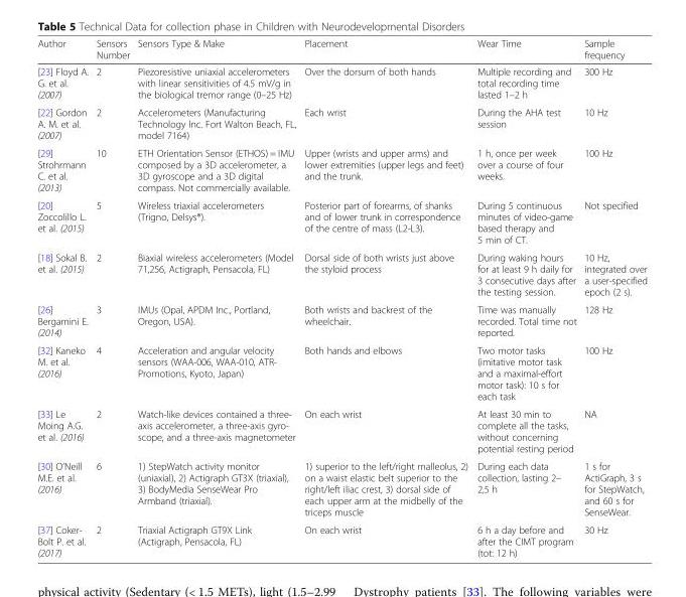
<table><thead><tr><td>Author</td><td>Sensors Number</td><td>Sensors Type &amp; Make</td><td>Placement</td><td>Wear Time</td><td>Sample frequency</td></tr></thead><tbody><tr><td>[23] Floyd A. G. et al. (2007)</td><td>2</td><td>Piezoresistive uniaxial accelerometers with linear sensitivities of 4.5 mV/g in the biological tremor range (0–25 Hz)</td><td>Over the dorsum of both hands</td><td>Multiple recording and total recording time lasted 1–2 h</td><td>300 Hz</td></tr><tr><td>[22] Gordon A. M. et al. (2007)</td><td>2</td><td>Accelerometers (Manufacturing Technology Inc. Fort Walton Beach, FL, model 7164)</td><td>Each wrist</td><td>During the AHA test session</td><td>10 Hz</td></tr><tr><td>[29] Strohrmann C. et al. (2013)</td><td>10</td><td>ETH Orientation Sensor (ETHOS) = IMU composed by a 3D accelerometer, a 3D gyroscope and a 3D digital compass. Not commercially available.</td><td>Upper (wrists and upper arms) and lower extremities (upper legs and feet) and the trunk.</td><td>1 h, once per week over a course of four weeks.</td><td>100 Hz</td></tr><tr><td>[20] Zoccolillo L. et al. (2015)</td><td>5</td><td>Wireless triaxial accelerometers (Trigno, Delsys®).</td><td>Posterior part of forearms, of shanks and of lower trunk in correspondence of the centre of mass (L2-L3).</td><td>During 5 continuous minutes of video-game based therapy and 5 min of CT.</td><td>Not specified</td></tr><tr><td>[18] Sokal B. et al. (2015)</td><td>2</td><td>Biaxial wireless accelerometers (Model 71,256, Actigraph, Pensacola, FL)</td><td>Dorsal side of both wrists just above the styloid process</td><td>During waking hours for at least 9 h daily for 3 consecutive days after the testing session.</td><td>10 Hz, integrated over a user-specified epoch (2 s).</td></tr><tr><td>[26] Bergamini E. (2014)</td><td>3</td><td>IMUs (Opal, APDM Inc., Portland, Oregon, USA).</td><td>Both wrists and backrest of the wheelchair.</td><td>Time was manually recorded. Total time not reported.</td><td>128 Hz</td></tr><tr><td>[32] Kaneko M. et al. (2016)</td><td>4</td><td>Acceleration and angular velocity sensors (WAA-006, WAA-010, ATR- Promotions, Kyoto, Japan)</td><td>Both hands and elbows</td><td>Two motor tasks (imitative motor task and a maximal-effort motor task): 10 s for each task</td><td>100 Hz</td></tr><tr><td>[33] Le Moing A.G. et al. (2016)</td><td>2</td><td>Watch-like devices contained a three- axis accelerometer, a three-axis gyro- scope, and a three-axis magnetometer</td><td>On each wrist</td><td>At least 30 min to complete all the tasks, without concerning potential resting period</td><td>NA</td></tr><tr><td>[30] O’Neill M.E. et al. (2016)</td><td>6</td><td>1) StepWatch activity monitor (uniaxial), 2) Actigraph GT3X (triaxial), 3) BodyMedia SenseWear Pro Armband (triaxial).</td><td>1) superior to the left/right malleolus, 2) on a waist elastic belt superior to the right/left iliac crest, 3) dorsal side of each upper arm at the midbelly of the triceps muscle</td><td>During each data collection, lasting 2– 2,5 h</td><td>1 s for ActiGraph, 3 s for StepWatch, and 60 s for SenseWear.</td></tr><tr><td>[37] Coker- Bolt P. et al. (2017)</td><td>2</td><td>Triaxial Actigraph GT9X Link (Actigraph, Pensacola, FL)</td><td>On each wrist</td><td>6 h a day before and after the CIMT program (tot: 12 h)</td><td>30 Hz</td></tr></tbody></table>